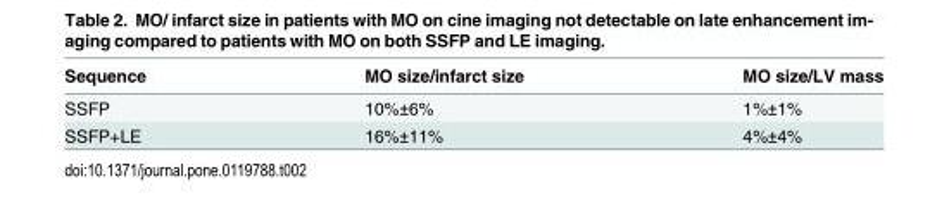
<table><thead><tr><td>Sequence</td><td>MO size/infarct size</td><td>MO size/LV mass</td></tr></thead><tbody><tr><td>SSFP</td><td>10%±6%</td><td>1%±1%</td></tr><tr><td>SSFP+LE</td><td>16%±11%</td><td>4%±4%</td></tr></tbody></table>